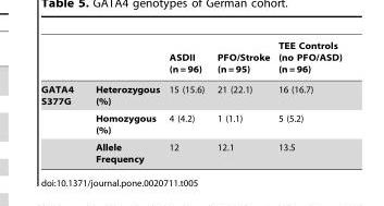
<table><thead><tr><td></td><td></td><td>ASDII (n = 96)</td><td>PFO/Stroke (n = 95)</td><td>TEE Controls (no PFO/ASD) (n = 96)</td></tr></thead><tbody><tr><td rowspan="3">GATA4 S377G</td><td>Heterozygous (%)</td><td>15 (15.6)</td><td>21 (22.1)</td><td>16 (16.7)</td></tr><tr><td>Homozygous (%)</td><td>4 (4.2)</td><td>1 (1.1)</td><td>5 (5.2)</td></tr><tr><td>Allele Frequency</td><td>12</td><td>12.1</td><td>13.5</td></tr></tbody></table>